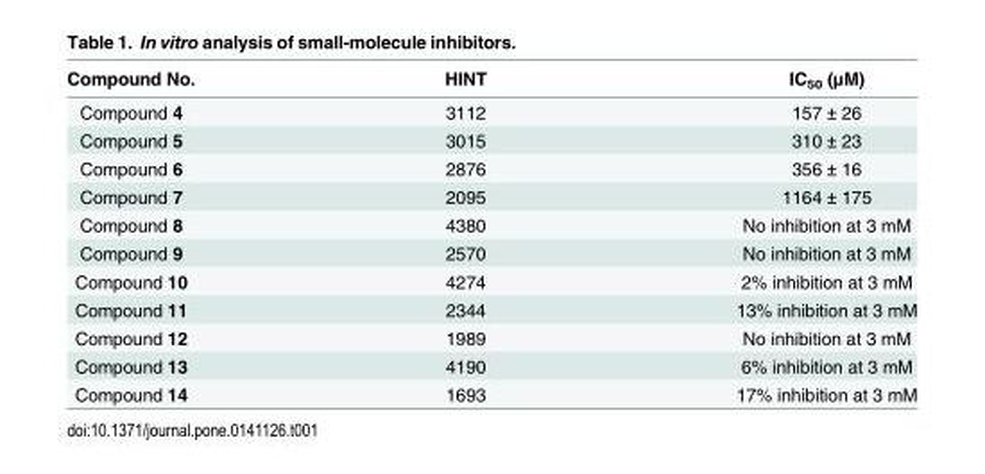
<table><thead><tr><td>Compound No.</td><td>HINT</td><td>IC<sub>50</sub> (μM)</td></tr></thead><tbody><tr><td>Compound 4</td><td>3112</td><td>157 ± 26</td></tr><tr><td>Compound 5</td><td>3015</td><td>310 ± 23</td></tr><tr><td>Compound 6</td><td>2876</td><td>356 ± 16</td></tr><tr><td>Compound 7</td><td>2095</td><td>1164 ± 175</td></tr><tr><td>Compound 8</td><td>4380</td><td>No inhibition at 3 mM</td></tr><tr><td>Compound 9</td><td>2570</td><td>No inhibition at 3 mM</td></tr><tr><td>Compound 10</td><td>4274</td><td>2% inhibition at 3 mM</td></tr><tr><td>Compound 11</td><td>2344</td><td>13% inhibition at 3 mM</td></tr><tr><td>Compound 12</td><td>1989</td><td>No inhibition at 3 mM</td></tr><tr><td>Compound 13</td><td>4190</td><td>6% inhibition at 3 mM</td></tr><tr><td>Compound 14</td><td>1693</td><td>17% inhibition at 3 mM</td></tr></tbody></table>